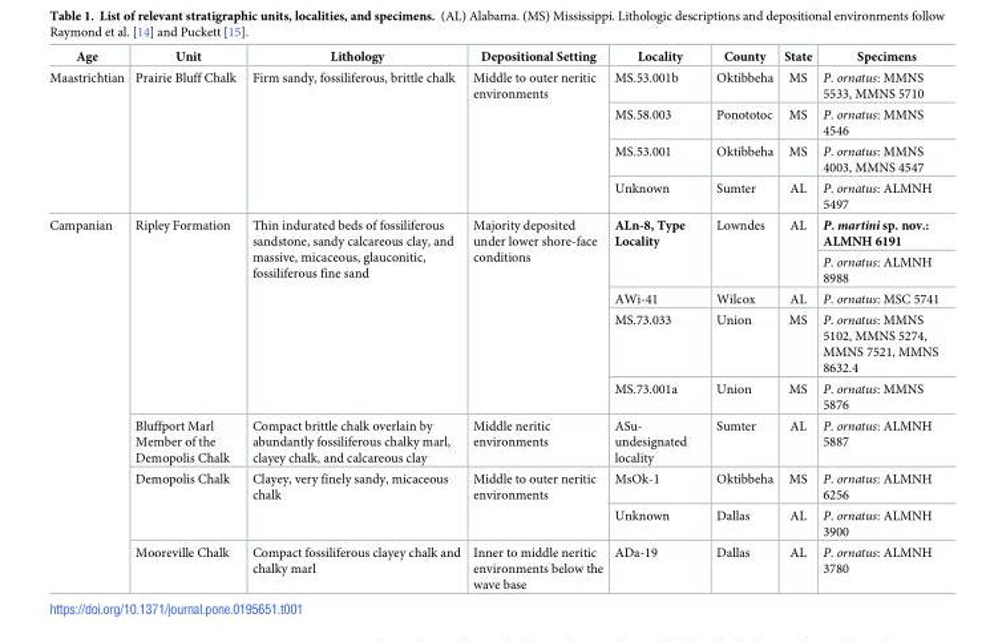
<table><thead><tr><td>Age</td><td>Unit</td><td>Lithology</td><td>Depositional Setting</td><td>Locality</td><td>County</td><td>State</td><td>Specimens</td></tr></thead><tbody><tr><td rowspan="4">Maastrichtian</td><td rowspan="4">Prairie Bluff Chalk</td><td rowspan="4">Firm sandy, fossiliferous, brittle chalk</td><td rowspan="4">Middle to outer neritic environments</td><td>MS.53.001b</td><td>Oktibbeha</td><td>MS</td><td>P. ornatus: MMNS 5533, MMNS 5710</td></tr><tr><td>MS.58.003</td><td>Ponototoc</td><td>MS</td><td>P. ornatus: MMNS 4546</td></tr><tr><td>MS.53.001</td><td>Oktibbeha</td><td>MS</td><td>P. ornatus: MMNS 4003, MMNS 4547</td></tr><tr><td>Unknown</td><td>Sumter</td><td>AL</td><td>P. ornatus: ALMNH 5497</td></tr><tr><td rowspan="9">Campanian</td><td rowspan="5">Ripley Formation</td><td rowspan="5">Thin indurated beds of fossiliferous sandstone, sandy calcareous clay, and massive, micaceous, glauconitic, fossiliferous fine sand</td><td rowspan="5">Majority deposited under lower shore-face conditions</td><td rowspan="2">ALn-8, Type Locality</td><td rowspan="2">Lowndes</td><td rowspan="2">AL</td><td>P. martini sp. nov.: ALMNH 6191</td></tr><tr><td>P. ornatus: ALMNH 8988</td></tr><tr><td>AWi-41</td><td>Wilcox</td><td>AL</td><td>P. ornatus: MSC 5741</td></tr><tr><td>MS.73.033</td><td>Union</td><td>MS</td><td>P. ornatus: MMNS 5102, MMNS 5274, MMNS 7521, MMNS 8632.4</td></tr><tr><td>MS.73.001a</td><td>Union</td><td>MS</td><td>P. ornatus: MMNS 5876</td></tr><tr><td>Bluffport Marl Member of the Demopolis Chalk</td><td>Compact brittle chalk overlain by abundantly fossiliferous chalky marl, clayey chalk, and calcareous clay</td><td>Middle neritic environments</td><td>ASu- undesignated locality</td><td>Sumter</td><td>AL</td><td>P. ornatus: ALMNH 5887</td></tr><tr><td rowspan="2">Demopolis Chalk</td><td rowspan="2">Clayey, very finely sandy, micaceous chalk</td><td rowspan="2">Middle to outer neritic environments</td><td>MsOk-1</td><td>Oktibbeha</td><td>MS</td><td>P. ornatus: ALMNH 6256</td></tr><tr><td>Unknown</td><td>Dallas</td><td>AL</td><td>P. ornatus: ALMNH 3900</td></tr><tr><td>Mooreville Chalk</td><td>Compact fossiliferous clayey chalk and chalky marl</td><td>Inner to middle neritic environments below the wave base</td><td>ADa-19</td><td>Dallas</td><td>AL</td><td>P. ornatus: ALMNH 3780</td></tr></tbody></table>